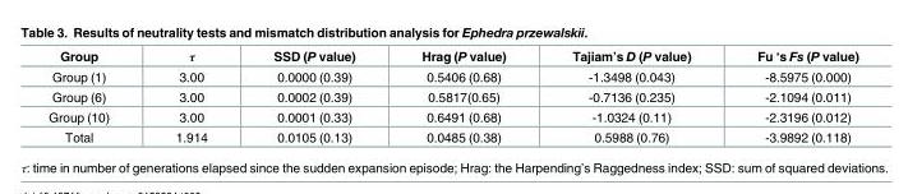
<table><thead><tr><td>Group</td><td>τ</td><td>SSD (P value)</td><td>Hrag (P value)</td><td>Tajiam’s D (P value)</td><td>Fu ‘s Fs (P value)</td></tr></thead><tbody><tr><td>Group (1)</td><td>3.00</td><td>0.0000 (0.39)</td><td>0.5406 (0.68)</td><td>-1.3498 (0.043)</td><td>-8.5975 (0.000)</td></tr><tr><td>Group (6)</td><td>3.00</td><td>0.0002 (0.39)</td><td>0.5817(0.65)</td><td>-0.7136 (0.235)</td><td>-2.1094 (0.011)</td></tr><tr><td>Group (10)</td><td>3.00</td><td>0.0001 (0.33)</td><td>0.6491 (0.68)</td><td>-1.0324 (0.11)</td><td>-2.3196 (0.012)</td></tr><tr><td>Total</td><td>1.914</td><td>0.0105 (0.13)</td><td>0.0485 (0.38)</td><td>0.5988 (0.76)</td><td>-3.9892 (0.118)</td></tr></tbody></table>